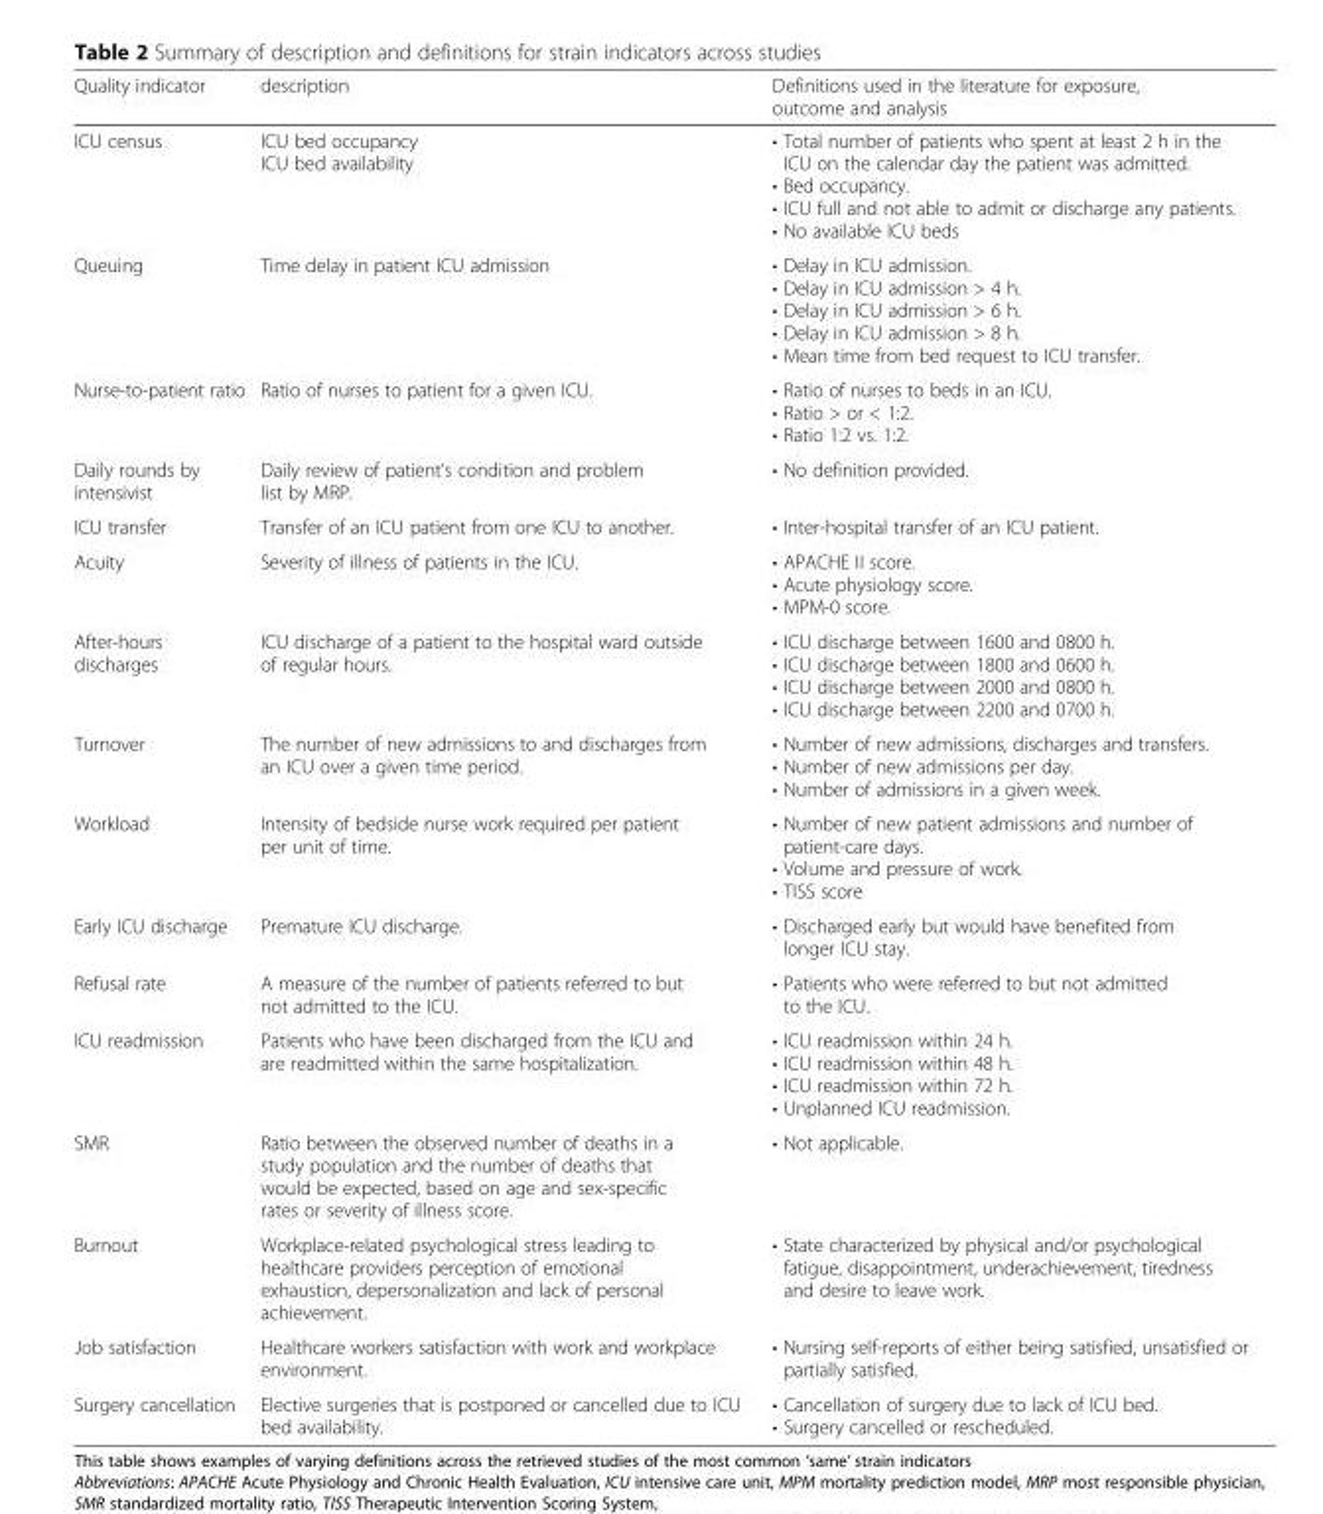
<table><thead><tr><td>Quality indicator</td><td>description</td><td>Definitions used in the literature for exposure, outcome and analysis</td></tr></thead><tbody><tr><td>ICU census</td><td>ICU bed occupancy ICU bed availability</td><td>• Total number of patients who spent at least 2 h in the ICU on the calendar day the patient was admitted. • Bed occupancy. • ICU full and not able to admit or discharge any patients. • No available ICU beds</td></tr><tr><td>Queuing</td><td>Time delay in patient ICU admission</td><td>• Delay in ICU admission. • Delay in ICU admission &gt; 4 h. • Delay in ICU admission &gt; 6 h. • Delay in ICU admission &gt; 8 h. • Mean time from bed request to ICU transfer.</td></tr><tr><td>Nurse-to-patient ratio</td><td>Ratio of nurses to patient for a given ICU.</td><td>• Ratio of nurses to beds in an ICU. • Ratio &gt; or &lt; 1:2. • Ratio 1:2 vs. 1:2.</td></tr><tr><td>Daily rounds by intensivist</td><td>Daily review of patient’s condition and problem list by MRP.</td><td>• No definition provided.</td></tr><tr><td>ICU transfer</td><td>Transfer of an ICU patient from one ICU to another.</td><td>• Inter-hospital transfer of an ICU patient.</td></tr><tr><td>Acuity</td><td>Severity of illness of patients in the ICU.</td><td>• APACHE II score. • Acute physiology score. • MPM-0 score.</td></tr><tr><td>After-hours discharges</td><td>ICU discharge of a patient to the hospital ward outside of regular hours.</td><td>• ICU discharge between 1600 and 0800 h. • ICU discharge between 1800 and 0600 h. • ICU discharge between 2000 and 0800 h. • ICU discharge between 2200 and 0700 h.</td></tr><tr><td>Turnover</td><td>The number of new admissions to and discharges from an ICU over a given time period.</td><td>• Number of new admissions, discharges and transfers. • Number of new admissions per day. • Number of admissions in a given week.</td></tr><tr><td>Workload</td><td>Intensity of bedside nurse work required per patient per unit of time.</td><td>• Number of new patient admissions and number of patient-care days. • Volume and pressure of work. • TISS score</td></tr><tr><td>Early ICU discharge</td><td>Premature ICU discharge.</td><td>• Discharged early but would have benefited from longer ICU stay.</td></tr><tr><td>Refusal rate</td><td>A measure of the number of patients referred to but not admitted to the ICU.</td><td>• Patients who were referred to but not admitted to the ICU.</td></tr><tr><td>ICU readmission</td><td>Patients who have been discharged from the ICU and are readmitted within the same hospitalization.</td><td>• ICU readmission within 24 h. • ICU readmission within 48 h. • ICU readmission within 72 h. • Unplanned ICU readmission.</td></tr><tr><td>SMR</td><td>Ratio between the observed number of deaths in a study population and the number of deaths that would be expected, based on age and sex-specific rates or severity of illness score.</td><td>• Not applicable.</td></tr><tr><td>Burnout</td><td>Workplace-related psychological stress leading to healthcare providers perception of emotional exhaustion, depersonalization and lack of personal achievement.</td><td>• State characterized by physical and/or psychological fatigue, disappointment, underachievement, tiredness and desire to leave work.</td></tr><tr><td>Job satisfaction</td><td>Healthcare workers satisfaction with work and workplace environment.</td><td>• Nursing self-reports of either being satisfied, unsatisfied or partially satisfied.</td></tr><tr><td>Surgery cancellation</td><td>Elective surgeries that is postponed or cancelled due to ICU bed availability.</td><td>• Cancellation of surgery due to lack of ICU bed. • Surgery cancelled or rescheduled.</td></tr></tbody></table>